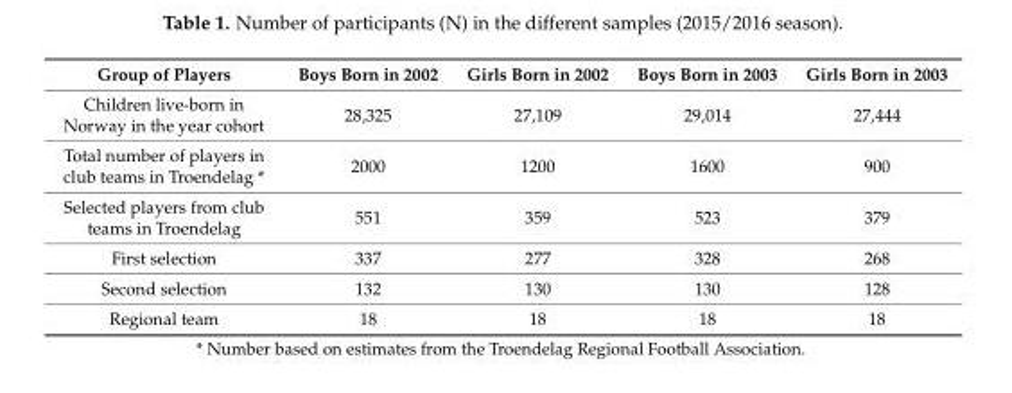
<table><thead><tr><td>Group of Players</td><td>Boys Born in 2002</td><td>Girls Born in 2002</td><td>Boys Born in 2003</td><td>Girls Born in 2003</td></tr></thead><tbody><tr><td>Children live-born in Norway in the year cohort</td><td>28,325</td><td>27,109</td><td>29,014</td><td>27,444</td></tr><tr><td>Total number of players in club teams in Troendelag *</td><td>2000</td><td>1200</td><td>1600</td><td>900</td></tr><tr><td>Selected players from club teams in Troendelag</td><td>551</td><td>359</td><td>523</td><td>379</td></tr><tr><td>First selection</td><td>337</td><td>277</td><td>328</td><td>268</td></tr><tr><td>Second selection</td><td>132</td><td>130</td><td>130</td><td>128</td></tr><tr><td>Regional team</td><td>18</td><td>18</td><td>18</td><td>18</td></tr></tbody></table>